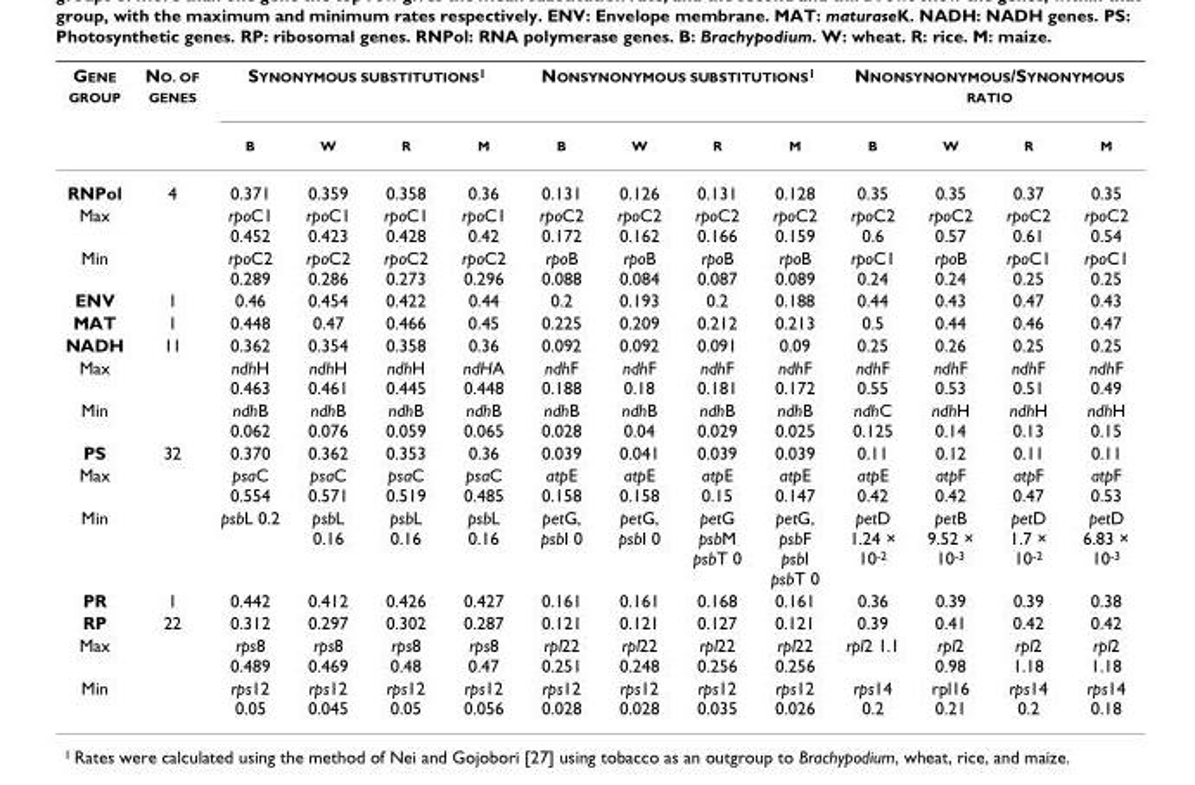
<table><thead><tr><td rowspan="2">GENE GROUP</td><td rowspan="2">NO. OF GENES</td><td colspan="4">SYNONYMOUS SUBSTITUTIONS<sup>1</sup></td><td colspan="4">NONSYNONYMOUS SUBSTITUTIONS<sup>1</sup></td><td colspan="4">NNONSYNONYMOUS/SYNONYMOUS RATIO</td></tr><tr><td>B</td><td>W</td><td>R</td><td>M</td><td>B</td><td>W</td><td>R</td><td>M</td><td>B</td><td>W</td><td>R</td><td>M</td></tr></thead><tbody><tr><td>RNPol</td><td>4</td><td>0.371</td><td>0.359</td><td>0.358</td><td>0.36</td><td>0.131</td><td>0.126</td><td>0.131</td><td>0.128</td><td>0.35</td><td>0.35</td><td>0.37</td><td>0.35</td></tr><tr><td>Max</td><td></td><td>rpoC1 0.452</td><td>rpoC1 0.423</td><td>rpoC1 0.428</td><td>rpoC1 0.42</td><td>rpoC2 0.172</td><td>rpoC2 0.162</td><td>rpoC2 0.166</td><td>rpoC2 0.159</td><td>rpoC2 0.6</td><td>rpoC2 0.57</td><td>rpoC2 0.61</td><td>rpoC2 0.54</td></tr><tr><td>Min</td><td></td><td>rpoC2 0.289</td><td>rpoC2 0.286</td><td>rpoC2 0.273</td><td>rpoC2 0.296</td><td>rpoB 0.088</td><td>rpoB 0.084</td><td>rpoB 0.087</td><td>rpoB 0.089</td><td>rpoC1 0.24</td><td>rpoB 0.24</td><td>rpoC1 0.25</td><td>rpoC1 0.25</td></tr><tr><td>ENV</td><td>1</td><td>0.46</td><td>0.454</td><td>0.422</td><td>0.44</td><td>0.2</td><td>0.193</td><td>0.2</td><td>0.188</td><td>0.44</td><td>0.43</td><td>0.47</td><td>0.43</td></tr><tr><td>MAT</td><td>1</td><td>0.448</td><td>0.47</td><td>0.466</td><td>0.45</td><td>0.225</td><td>0.209</td><td>0.212</td><td>0.213</td><td>0.5</td><td>0.44</td><td>0.46</td><td>0.47</td></tr><tr><td>NADH</td><td>11</td><td>0.362</td><td>0.354</td><td>0.358</td><td>0.36</td><td>0.092</td><td>0.092</td><td>0.091</td><td>0.09</td><td>0.25</td><td>0.26</td><td>0.25</td><td>0.25</td></tr><tr><td>Max</td><td></td><td>ndhH 0.463</td><td>ndhH 0.461</td><td>ndhH 0.445</td><td>ndHA 0.448</td><td>ndhF 0.188</td><td>ndhF 0.18</td><td>ndhF 0.181</td><td>ndhF 0.172</td><td>ndhF 0.55</td><td>ndhF 0.53</td><td>ndhF 0.51</td><td>ndhF 0.49</td></tr><tr><td>Min</td><td></td><td>ndhB 0.062</td><td>ndhB 0.076</td><td>ndhB 0.059</td><td>ndhB 0.065</td><td>ndhB 0.028</td><td>ndhB 0.04</td><td>ndhB 0.029</td><td>ndhB 0.025</td><td>ndhC 0.125</td><td>ndhH 0.14</td><td>ndhH 0.13</td><td>ndhH 0.15</td></tr><tr><td>PS</td><td>32</td><td>0.370</td><td>0.362</td><td>0.353</td><td>0.36</td><td>0.039</td><td>0.041</td><td>0.039</td><td>0.039</td><td>0.11</td><td>0.12</td><td>0.11</td><td>0.11</td></tr><tr><td>Max</td><td></td><td>psaC 0.554</td><td>psaC 0.571</td><td>psaC 0.519</td><td>psaC 0.485</td><td>atpE 0.158</td><td>atpE 0.158</td><td>atpE 0.15</td><td>atpE 0.147</td><td>atpE 0.42</td><td>atpF 0.42</td><td>atpF 0.47</td><td>atpF 0.53</td></tr><tr><td>Min</td><td></td><td>psbL 0.2</td><td>psbL 0.16</td><td>psbL 0.16</td><td>psbL 0.16</td><td>petG, psbI 0</td><td>petG, psbI 0</td><td>petG psbM psbT 0</td><td>petG, psbF psbI psbT 0</td><td>petD 1.24 × 10<sup>-2</sup></td><td>petB 9.52 × 10<sup>-3</sup></td><td>petD 1.7 × 10<sup>-2</sup></td><td>petD 6.83 × 10<sup>-3</sup></td></tr><tr><td>PR</td><td>1</td><td>0.442</td><td>0.412</td><td>0.426</td><td>0.427</td><td>0.161</td><td>0.161</td><td>0.168</td><td>0.161</td><td>0.36</td><td>0.39</td><td>0.39</td><td>0.38</td></tr><tr><td>RP</td><td>22</td><td>0.312</td><td>0.297</td><td>0.302</td><td>0.287</td><td>0.121</td><td>0.121</td><td>0.127</td><td>0.121</td><td>0.39</td><td>0.41</td><td>0.42</td><td>0.42</td></tr><tr><td>Max</td><td></td><td>rps8 0.489</td><td>rps8 0.469</td><td>rps8 0.48</td><td>rps8 0.47</td><td>rpl22 0.251</td><td>rpl22 0.248</td><td>rpl22 0.256</td><td>rpl22 0.256</td><td>rpl2 1.1</td><td>rpl2 0.98</td><td>rpl2 1.18</td><td>rpl2 1.18</td></tr><tr><td>Min</td><td></td><td>rps12 0.05</td><td>rps12 0.045</td><td>rps12 0.05</td><td>rps12 0.056</td><td>rps12 0.028</td><td>rps12 0.028</td><td>rps12 0.035</td><td>rps12 0.026</td><td>rps14 0.2</td><td>rpl16 0.21</td><td>rps14 0.2</td><td>rps14 0.18</td></tr></tbody></table>